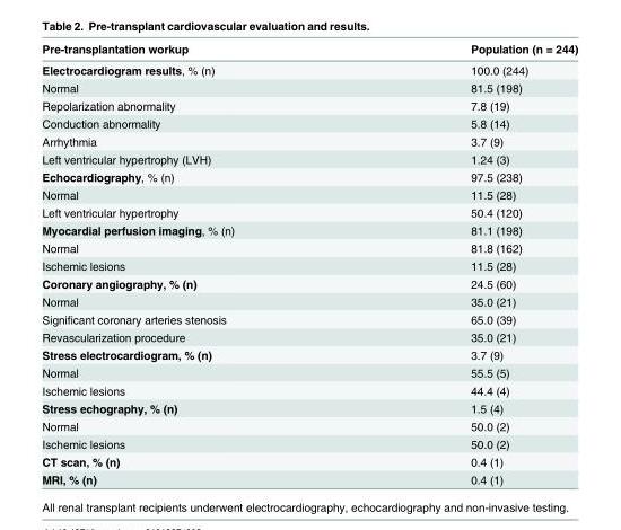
<table><thead><tr><td>Pre-transplantation workup</td><td>Population (n = 244)</td></tr></thead><tbody><tr><td>Electrocardiogram results, % (n)</td><td>100.0 (244)</td></tr><tr><td>Normal</td><td>81.5 (198)</td></tr><tr><td>Repolarization abnormality</td><td>7.8 (19)</td></tr><tr><td>Conduction abnormality</td><td>5.8 (14)</td></tr><tr><td>Arrhythmia</td><td>3.7 (9)</td></tr><tr><td>Left ventricular hypertrophy (LVH)</td><td>1.24 (3)</td></tr><tr><td>Echocardiography, % (n)</td><td>97.5 (238)</td></tr><tr><td>Normal</td><td>11.5 (28)</td></tr><tr><td>Left ventricular hypertrophy</td><td>50.4 (120)</td></tr><tr><td>Myocardial perfusion imaging, % (n)</td><td>81.1 (198)</td></tr><tr><td>Normal</td><td>81.8 (162)</td></tr><tr><td>Ischemic lesions</td><td>11.5 (28)</td></tr><tr><td>Coronary angiography, % (n)</td><td>24.5 (60)</td></tr><tr><td>Normal</td><td>35.0 (21)</td></tr><tr><td>Significant coronary arteries stenosis</td><td>65.0 (39)</td></tr><tr><td>Revascularization procedure</td><td>35.0 (21)</td></tr><tr><td>Stress electrocardiogram, % (n)</td><td>3.7 (9)</td></tr><tr><td>Normal</td><td>55.5 (5)</td></tr><tr><td>Ischemic lesions</td><td>44.4 (4)</td></tr><tr><td>Stress echography, % (n)</td><td>1.5 (4)</td></tr><tr><td>Normal</td><td>50.0 (2)</td></tr><tr><td>Ischemic lesions</td><td>50.0 (2)</td></tr><tr><td>CT scan, % (n)</td><td>0.4 (1)</td></tr><tr><td>MRI, % (n)</td><td>0.4 (1)</td></tr></tbody></table>